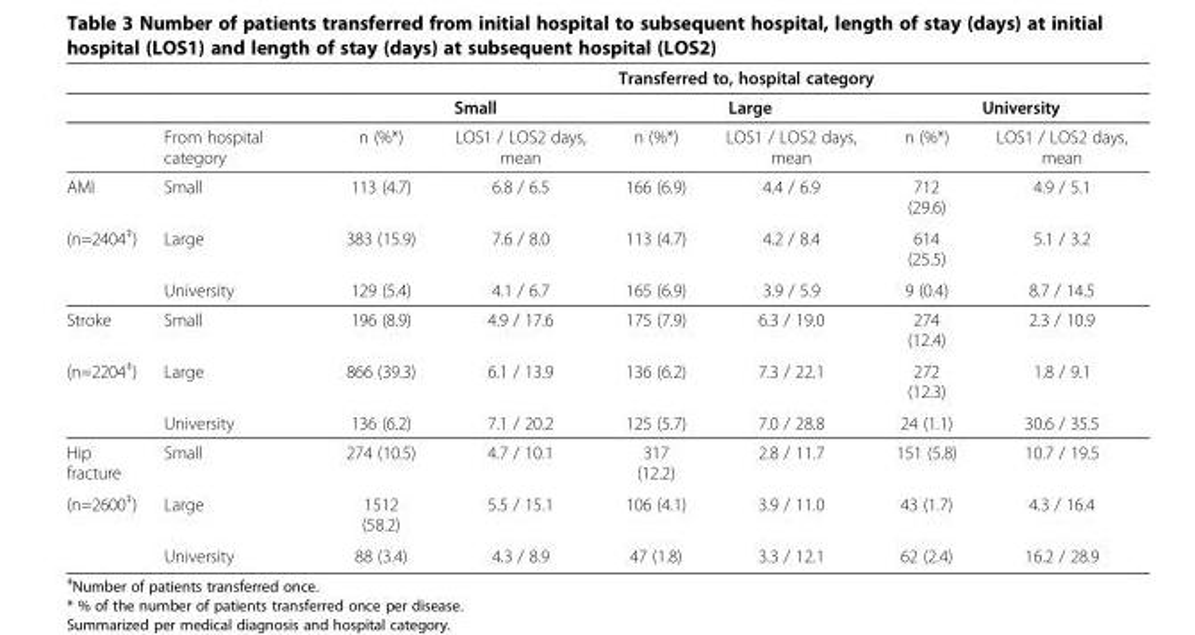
<table><thead><tr><td rowspan="3"></td><td rowspan="3">From hospital category</td><td colspan="6">Transferred to, hospital category</td></tr><tr><td colspan="2">Small</td><td colspan="2">Large</td><td colspan="2">University</td></tr><tr><td>n (%*)</td><td>LOS1 / LOS2 days, mean</td><td>n (%*)</td><td>LOS1 / LOS2 days, mean</td><td>n (%*)</td><td>LOS1 / LOS2 days, mean</td></tr></thead><tbody><tr><td>AMI</td><td>Small</td><td>113 (4.7)</td><td>6.8 / 6.5</td><td>166 (6.9)</td><td>4.4 / 6.9</td><td>712 (29.6)</td><td>4.9 / 5.1</td></tr><tr><td rowspan="2">(n=2404<sup>‡</sup>)</td><td>Large</td><td>383 (15.9)</td><td>7.6 / 8.0</td><td>113 (4.7)</td><td>4.2 / 8.4</td><td>614 (25.5)</td><td>5.1 / 3.2</td></tr><tr><td>University</td><td>129 (5.4)</td><td>4.1 / 6.7</td><td>165 (6.9)</td><td>3.9 / 5.9</td><td>9 (0.4)</td><td>8.7 / 14.5</td></tr><tr><td>Stroke</td><td>Small</td><td>196 (8.9)</td><td>4.9 / 17.6</td><td>175 (7.9)</td><td>6.3 / 19.0</td><td>274 (12.4)</td><td>2.3 / 10.9</td></tr><tr><td rowspan="2">(n=2204<sup>‡</sup>)</td><td>Large</td><td>866 (39.3)</td><td>6.1 / 13.9</td><td>136 (6.2)</td><td>7.3 / 22.1</td><td>272 (12.3)</td><td>1.8 / 9.1</td></tr><tr><td>University</td><td>136 (6.2)</td><td>7.1 / 20.2</td><td>125 (5.7)</td><td>7.0 / 28.8</td><td>24 (1.1)</td><td>30.6 / 35.5</td></tr><tr><td>Hip fracture</td><td>Small</td><td>274 (10.5)</td><td>4.7 / 10.1</td><td>317 (12.2)</td><td>2.8 / 11.7</td><td>151 (5.8)</td><td>10.7 / 19.5</td></tr><tr><td rowspan="2">(n=2600<sup>‡</sup>)</td><td>Large</td><td>1512 (58.2)</td><td>5.5 / 15.1</td><td>106 (4.1)</td><td>3.9 / 11.0</td><td>43 (1.7)</td><td>4.3 / 16.4</td></tr><tr><td>University</td><td>88 (3.4)</td><td>4.3 / 8.9</td><td>47 (1.8)</td><td>3.3 / 12.1</td><td>62 (2.4)</td><td>16.2 / 28.9</td></tr></tbody></table>